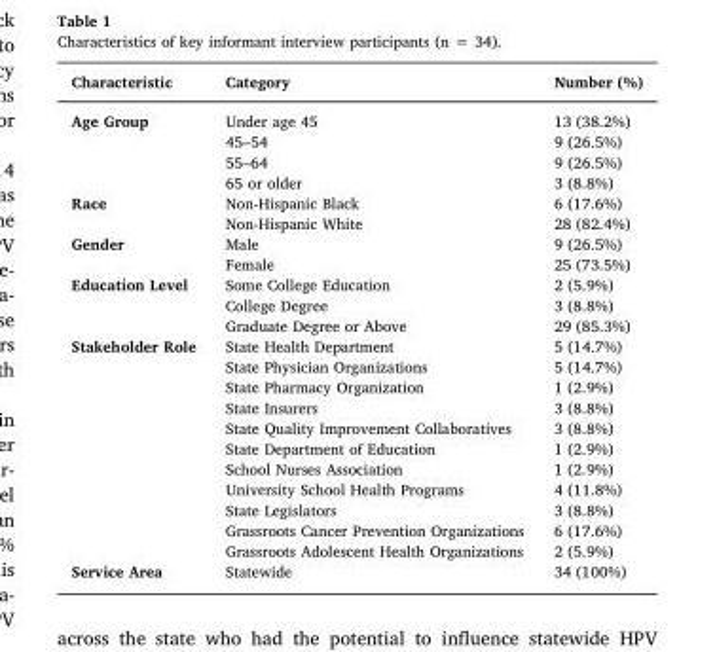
<table><thead><tr><td>Characteristic</td><td>Category</td><td>Number (%)</td></tr></thead><tbody><tr><td rowspan="4">Age Group</td><td>Under age 45</td><td>13 (38.2%)</td></tr><tr><td>45–54</td><td>9 (26.5%)</td></tr><tr><td>55–64</td><td>9 (26.5%)</td></tr><tr><td>65 or older</td><td>3 (8.8%)</td></tr><tr><td rowspan="2">Race</td><td>Non-Hispanic Black</td><td>6 (17.6%)</td></tr><tr><td>Non-Hispanic White</td><td>28 (82.4%)</td></tr><tr><td rowspan="2">Gender</td><td>Male</td><td>9 (26.5%)</td></tr><tr><td>Female</td><td>25 (73.5%)</td></tr><tr><td rowspan="3">Education Level</td><td>Some College Education</td><td>2 (5.9%)</td></tr><tr><td>College Degree</td><td>3 (8.8%)</td></tr><tr><td>Graduate Degree or Above</td><td>29 (85.3%)</td></tr><tr><td rowspan="11">Stakeholder Role</td><td>State Health Department</td><td>5 (14.7%)</td></tr><tr><td>State Physician Organizations</td><td>5 (14.7%)</td></tr><tr><td>State Pharmacy Organization</td><td>1 (2.9%)</td></tr><tr><td>State Insurers</td><td>3 (8.8%)</td></tr><tr><td>State Quality Improvement Collaboratives</td><td>3 (8.8%)</td></tr><tr><td>State Department of Education</td><td>1 (2.9%)</td></tr><tr><td>School Nurses Association</td><td>1 (2.9%)</td></tr><tr><td>University School Health Programs</td><td>4 (11.8%)</td></tr><tr><td>State Legislators</td><td>3 (8.8%)</td></tr><tr><td>Grassroots Cancer Prevention Organizations</td><td>6 (17.6%)</td></tr><tr><td>Grassroots Adolescent Health Organizations</td><td>2 (5.9%)</td></tr><tr><td>Service Area</td><td>Statewide</td><td>34 (100%)</td></tr></tbody></table>